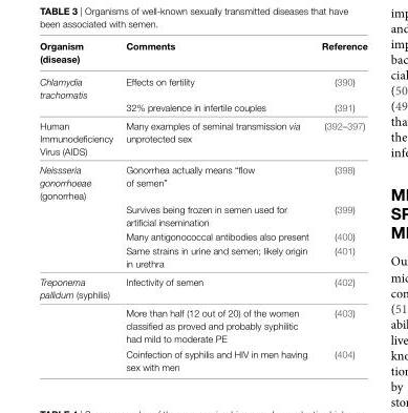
<table><thead><tr><td>organism (disease)</td><td>Comments</td><td>reference</td></tr></thead><tbody><tr><td rowspan="2">Chlamydia trachomatis</td><td>Effects on fertility</td><td>(390)</td></tr><tr><td>32% prevalence in infertile couples</td><td>(391)</td></tr><tr><td>Human Immunodeficiency Virus (AIDS)</td><td>Many examples of seminal transmission via unprotected sex</td><td>(392–397)</td></tr><tr><td rowspan="4">Neissseria gonorrhoeae (gonorrhea)</td><td>Gonorrhea actually means “flow of semen”</td><td>(398)</td></tr><tr><td>Survives being frozen in semen used for artificial insemination</td><td>(399)</td></tr><tr><td>Many antigonococcal antibodies also present</td><td>(400)</td></tr><tr><td>Same strains in urine and semen; likely origin in urethra</td><td>(401)</td></tr><tr><td rowspan="3">Treponema pallidum (syphilis)</td><td>Infectivity of semen</td><td>(402)</td></tr><tr><td>More than half (12 out of 20) of the women classified as proved and probably syphilitic had mild to moderate PE</td><td>(403)</td></tr><tr><td>Coinfection of syphilis and HIV in men having sex with men</td><td>(404)</td></tr></tbody></table>